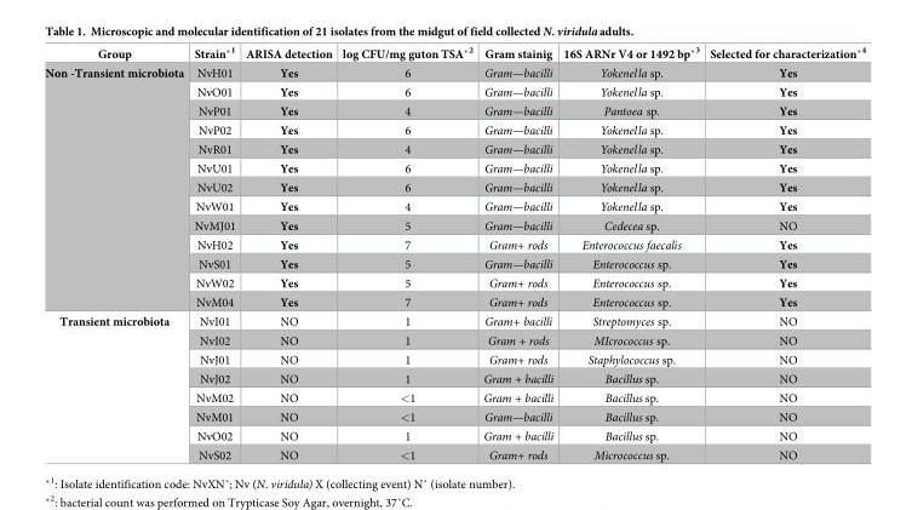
<table><thead><tr><td>Group</td><td>Strain*<sup>1</sup></td><td>ARISA detection</td><td>log CFU/mg guton TSA*<sup>2</sup></td><td>Gram stainig</td><td>16S ARNr V4 or 1492 bp*<sup>3</sup></td><td>Selected for characterization*<sup>4</sup></td></tr></thead><tbody><tr><td rowspan="13">Non -Transient microbiota</td><td>NvH01</td><td>Yes</td><td>6</td><td>Gram—bacilli</td><td>Yokenella sp.</td><td>Yes</td></tr><tr><td>NvO01</td><td>Yes</td><td>6</td><td>Gram—bacilli</td><td>Yokenella sp.</td><td>Yes</td></tr><tr><td>NvP01</td><td>Yes</td><td>4</td><td>Gram—bacilli</td><td>Pantoea sp.</td><td>Yes</td></tr><tr><td>NvP02</td><td>Yes</td><td>6</td><td>Gram—bacilli</td><td>Yokenella sp.</td><td>Yes</td></tr><tr><td>NvR01</td><td>Yes</td><td>4</td><td>Gram—bacilli</td><td>Yokenella sp.</td><td>Yes</td></tr><tr><td>NvU01</td><td>Yes</td><td>6</td><td>Gram—bacilli</td><td>Yokenella sp.</td><td>Yes</td></tr><tr><td>NvU02</td><td>Yes</td><td>6</td><td>Gram—bacilli</td><td>Yokenella sp.</td><td>Yes</td></tr><tr><td>NvW01</td><td>Yes</td><td>4</td><td>Gram—bacilli</td><td>Yokenella sp.</td><td>Yes</td></tr><tr><td>NvMJ01</td><td>Yes</td><td>5</td><td>Gram—bacilli</td><td>Cedecea sp.</td><td>NO</td></tr><tr><td>NvH02</td><td>Yes</td><td>7</td><td>Gram+ rods</td><td>Enterococcus faecalis</td><td>Yes</td></tr><tr><td>NvS01</td><td>Yes</td><td>5</td><td>Gram—bacilli</td><td>Enterococcus sp.</td><td>Yes</td></tr><tr><td>NvW02</td><td>Yes</td><td>5</td><td>Gram+ rods</td><td>Enterococcus sp.</td><td>Yes</td></tr><tr><td>NvM04</td><td>Yes</td><td>7</td><td>Gram+ rods</td><td>Enterococcus sp.</td><td>Yes</td></tr><tr><td rowspan="8">Transient microbiota</td><td>NvI01</td><td>NO</td><td>1</td><td>Gram+ bacilli</td><td>Streptomyces sp.</td><td>NO</td></tr><tr><td>NvI02</td><td>NO</td><td>1</td><td>Gram + rods</td><td>MIcrococcus sp.</td><td>NO</td></tr><tr><td>NvJ01</td><td>NO</td><td>1</td><td>Gram+ rods</td><td>Staphylococcus sp.</td><td>NO</td></tr><tr><td>NvJ02</td><td>NO</td><td>1</td><td>Gram + bacilli</td><td>Bacillus sp.</td><td>NO</td></tr><tr><td>NvM02</td><td>NO</td><td>&lt;1</td><td>Gram + bacilli</td><td>Bacillus sp.</td><td>NO</td></tr><tr><td>NvM01</td><td>NO</td><td>&lt;1</td><td>Gram—bacilli</td><td>Bacillus sp.</td><td>NO</td></tr><tr><td>NvO02</td><td>NO</td><td>1</td><td>Gram + bacilli</td><td>Bacillus sp.</td><td>NO</td></tr><tr><td>NvS02</td><td>NO</td><td>&lt;1</td><td>Gram+ rods</td><td>Micrococcus sp.</td><td>NO</td></tr></tbody></table>